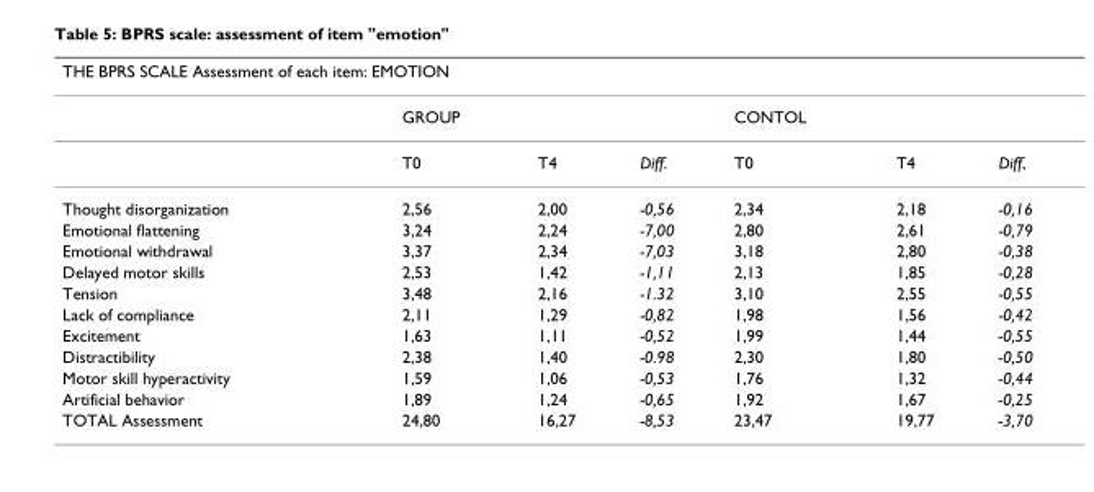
<table><thead><tr><td colspan="7">THE BPRS SCALE Assessment of each item: EMOTION</td></tr><tr><td></td><td>GROUP</td><td></td><td></td><td>CONTOL</td><td></td><td></td></tr></thead><tbody><tr><td></td><td>T0</td><td>T4</td><td>Diff.</td><td>T0</td><td>T4</td><td>Diff,</td></tr><tr><td>Thought disorganization</td><td>2,56</td><td>2,00</td><td>-0,56</td><td>2,34</td><td>2,18</td><td>-0,16</td></tr><tr><td>Emotional flattening</td><td>3,24</td><td>2,24</td><td>-7,00</td><td>2,80</td><td>2,61</td><td>-0,79</td></tr><tr><td>Emotional withdrawal</td><td>3,37</td><td>2,34</td><td>-7,03</td><td>3,18</td><td>2,80</td><td>-0,38</td></tr><tr><td>Delayed motor skills</td><td>2,53</td><td>1,42</td><td>-1,11</td><td>2,13</td><td>1,85</td><td>-0,28</td></tr><tr><td>Tension</td><td>3,48</td><td>2,16</td><td>-1.32</td><td>3,10</td><td>2,55</td><td>-0,55</td></tr><tr><td>Lack of compliance</td><td>2,11</td><td>1,29</td><td>-0,82</td><td>1,98</td><td>1,56</td><td>-0,42</td></tr><tr><td>Excitement</td><td>1,63</td><td>1,11</td><td>-0,52</td><td>1,99</td><td>1,44</td><td>-0,55</td></tr><tr><td>Distractibility</td><td>2,38</td><td>1,40</td><td>-0.98</td><td>2,30</td><td>1,80</td><td>-0,50</td></tr><tr><td>Motor skill hyperactivity</td><td>1,59</td><td>1,06</td><td>-0,53</td><td>1,76</td><td>1,32</td><td>-0,44</td></tr><tr><td>Artificial behavior</td><td>1,89</td><td>1,24</td><td>-0,65</td><td>1,92</td><td>1,67</td><td>-0,25</td></tr><tr><td>TOTAL Assessment</td><td>24,80</td><td>16,27</td><td>-8,53</td><td>23,47</td><td>19,77</td><td>-3,70</td></tr></tbody></table>